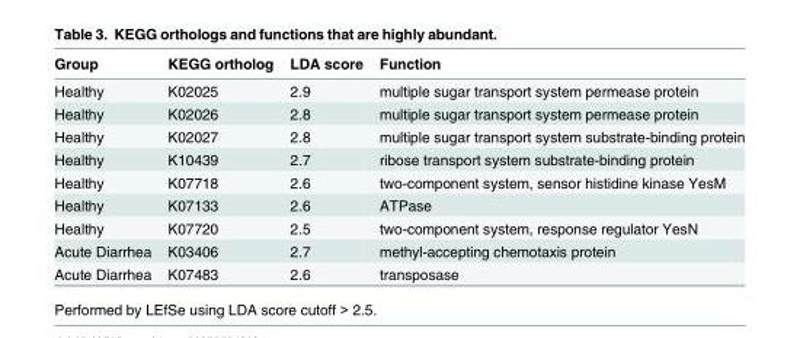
<table><thead><tr><td>Group</td><td>KEGG ortholog</td><td>LDA score</td><td>Function</td></tr></thead><tbody><tr><td>Healthy</td><td>K02025</td><td>2.9</td><td>multiple sugar transport system permease protein</td></tr><tr><td>Healthy</td><td>K02026</td><td>2.8</td><td>multiple sugar transport system permease protein</td></tr><tr><td>Healthy</td><td>K02027</td><td>2.8</td><td>multiple sugar transport system substrate-binding protein</td></tr><tr><td>Healthy</td><td>K10439</td><td>2.7</td><td>ribose transport system substrate-binding protein</td></tr><tr><td>Healthy</td><td>K07718</td><td>2.6</td><td>two-component system, sensor histidine kinase YesM</td></tr><tr><td>Healthy</td><td>K07133</td><td>2.6</td><td>ATPase</td></tr><tr><td>Healthy</td><td>K07720</td><td>2.5</td><td>two-component system, response regulator YesN</td></tr><tr><td>Acute Diarrhea</td><td>K03406</td><td>2.7</td><td>methyl-accepting chemotaxis protein</td></tr><tr><td>Acute Diarrhea</td><td>K07483</td><td>2.6</td><td>transposase</td></tr></tbody></table>